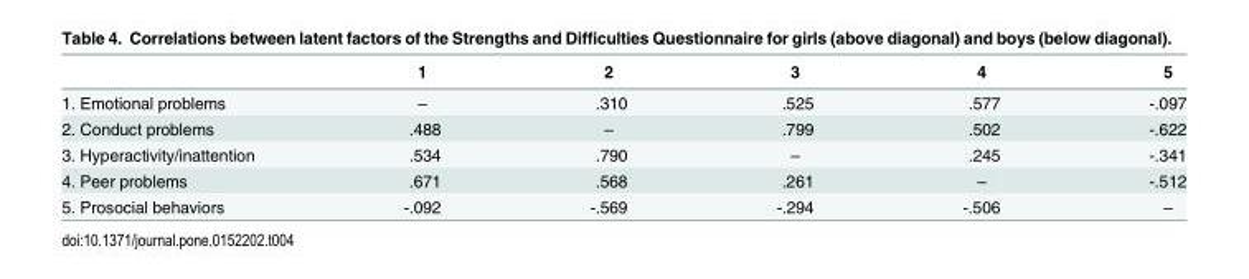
<table><thead><tr><td></td><td>1</td><td>2</td><td>3</td><td>4</td><td>5</td></tr></thead><tbody><tr><td>1. Emotional problems</td><td>–</td><td>.310</td><td>.525</td><td>.577</td><td>-.097</td></tr><tr><td>2. Conduct problems</td><td>.488</td><td>–</td><td>.799</td><td>.502</td><td>-.622</td></tr><tr><td>3. Hyperactivity/inattention</td><td>.534</td><td>.790</td><td>–</td><td>.245</td><td>-.341</td></tr><tr><td>4. Peer problems</td><td>.671</td><td>.568</td><td>.261</td><td>–</td><td>-.512</td></tr><tr><td>5. Prosocial behaviors</td><td>-.092</td><td>-.569</td><td>-.294</td><td>-.506</td><td>–</td></tr></tbody></table>